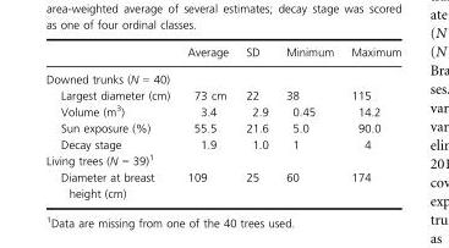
<table><thead><tr><td></td><td>Average</td><td>SD</td><td>Minimum</td><td>Maximum</td></tr></thead><tbody><tr><td colspan="5">Downed trunks (N = 40)</td></tr><tr><td>Largest diameter (cm)</td><td>73 cm</td><td>22</td><td>38</td><td>115</td></tr><tr><td>Volume (m<sup>3</sup>)</td><td>3.4</td><td>2.9</td><td>0.45</td><td>14.2</td></tr><tr><td>Sun exposure (%)</td><td>55.5</td><td>21.6</td><td>5.0</td><td>90.0</td></tr><tr><td>Decay stage</td><td>1.9</td><td>1.0</td><td>1</td><td>4</td></tr><tr><td colspan="5">Living trees (N = 39)1</td></tr><tr><td>Diameter at breast height (cm)</td><td>109</td><td>25</td><td>60</td><td>174</td></tr></tbody></table>